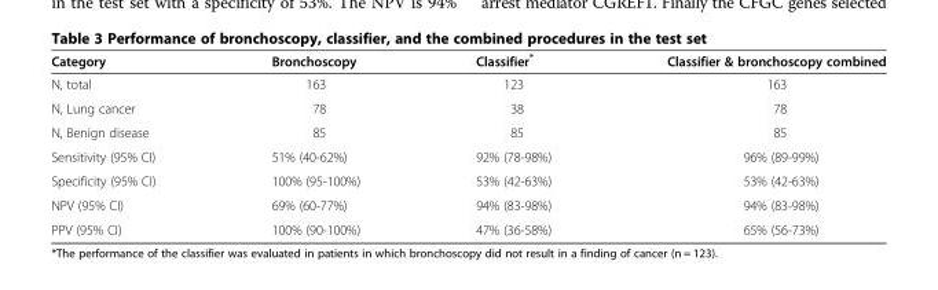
<table><thead><tr><td>Category</td><td>Bronchoscopy</td><td>Classifier*</td><td>Classifier &amp; bronchoscopy combined</td></tr></thead><tbody><tr><td>N, total</td><td>163</td><td>123</td><td>163</td></tr><tr><td>N, Lung cancer</td><td>78</td><td>38</td><td>78</td></tr><tr><td>N, Benign disease</td><td>85</td><td>85</td><td>85</td></tr><tr><td>Sensitivity (95% CI)</td><td>51% (40-62%)</td><td>92% (78-98%)</td><td>96% (89-99%)</td></tr><tr><td>Specificity (95% CI)</td><td>100% (95-100%)</td><td>53% (42-63%)</td><td>53% (42-63%)</td></tr><tr><td>NPV (95% CI)</td><td>69% (60-77%)</td><td>94% (83-98%)</td><td>94% (83-98%)</td></tr><tr><td>PPV (95% CI)</td><td>100% (90-100%)</td><td>47% (36-58%)</td><td>65% (56-73%)</td></tr></tbody></table>